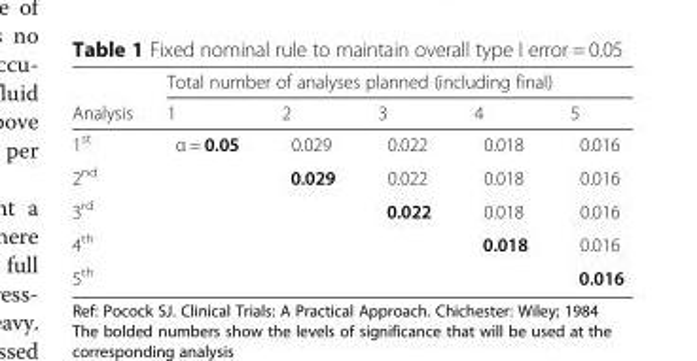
<table><thead><tr><td rowspan="2">Analysis</td><td colspan="5">Total number of analyses planned (including final)</td></tr><tr><td>1</td><td>2</td><td>3</td><td>4</td><td>5</td></tr></thead><tbody><tr><td>1<sup>st</sup></td><td>α = 0.05</td><td>0.029</td><td>0.022</td><td>0.018</td><td>0.016</td></tr><tr><td>2<sup>nd</sup></td><td></td><td>0.029</td><td>0.022</td><td>0.018</td><td>0.016</td></tr><tr><td>3<sup>rd</sup></td><td></td><td></td><td>0.022</td><td>0.018</td><td>0.016</td></tr><tr><td>4<sup>th</sup></td><td></td><td></td><td></td><td>0.018</td><td>0.016</td></tr><tr><td>5<sup>th</sup></td><td></td><td></td><td></td><td></td><td>0.016</td></tr></tbody></table>